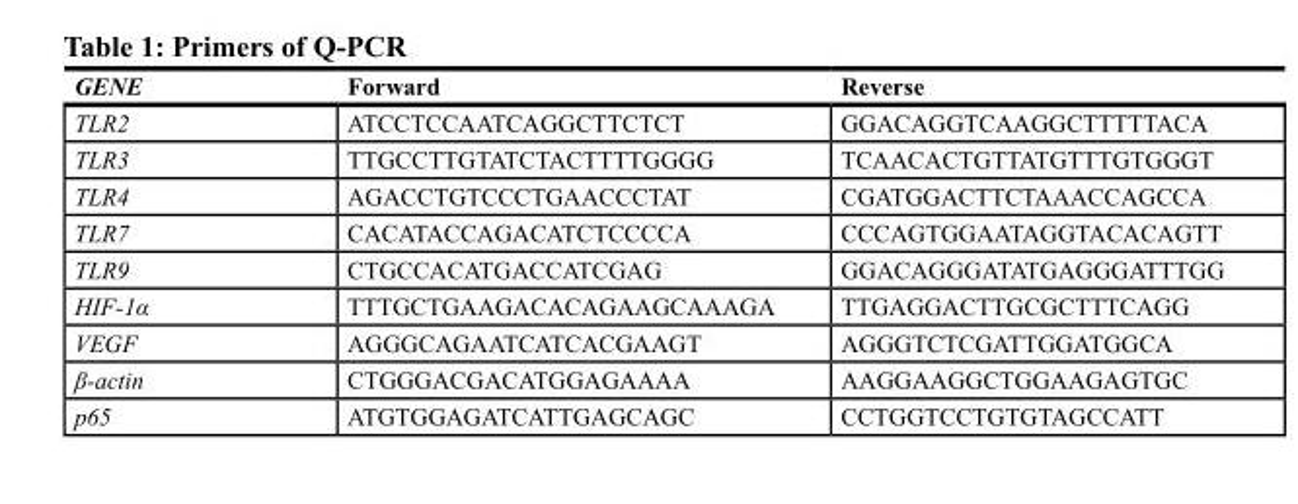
<table><thead><tr><td>GENE</td><td>Forward</td><td>Reverse</td></tr></thead><tbody><tr><td>TLR2</td><td>ATCCTCCAATCAGGCTTCTCT</td><td>GGACAGGTCAAGGCTTTTTACA</td></tr><tr><td>TLR3</td><td>TTGCCTTGTATCTACTTTTGGGG</td><td>TCAACACTGTTATGTTTGTGGGT</td></tr><tr><td>TLR4</td><td>AGACCTGTCCCTGAACCCTAT</td><td>CGATGGACTTCTAAACCAGCCA</td></tr><tr><td>TLR7</td><td>CACATACCAGACATCTCCCCA</td><td>CCCAGTGGAATAGGTACACAGTT</td></tr><tr><td>TLR9</td><td>CTGCCACATGACCATCGAG</td><td>GGACAGGGATATGAGGGATTTGG</td></tr><tr><td>HIF-1α</td><td>TTTGCTGAAGACACAGAAGCAAAGA</td><td>TTGAGGACTTGCGCTTTCAGG</td></tr><tr><td>VEGF</td><td>AGGGCAGAATCATCACGAAGT</td><td>AGGGTCTCGATTGGATGGCA</td></tr><tr><td>β-actin</td><td>CTGGGACGACATGGAGAAAA</td><td>AAGGAAGGCTGGAAGAGTGC</td></tr><tr><td>p65</td><td>ATGTGGAGATCATTGAGCAGC</td><td>CCTGGTCCTGTGTAGCCATT</td></tr></tbody></table>